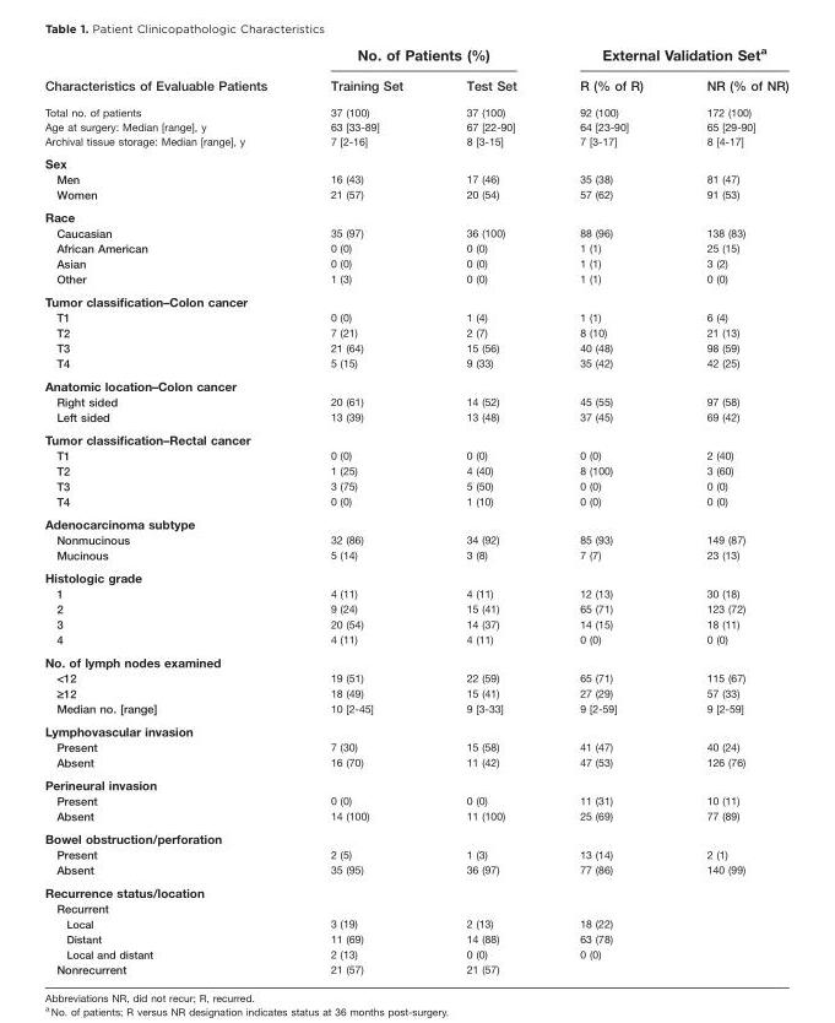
<table><thead><tr><td rowspan="2">Characteristics of Evaluable Patients</td><td colspan="2">No. of Patients (%)</td><td colspan="2">External Validation Set<sup>a</sup></td></tr><tr><td>Training Set</td><td>Test Set</td><td>R (% of R)</td><td>NR (% of NR)</td></tr></thead><tbody><tr><td>Total no. of patients</td><td>37 (100)</td><td>37 (100)</td><td>92 (100)</td><td>172 (100)</td></tr><tr><td>Age at surgery: Median [range], y</td><td>63 [33-89]</td><td>67 [22-90]</td><td>64 [23-90]</td><td>65 [29-90]</td></tr><tr><td>Archival tissue storage: Median [range], y</td><td>7 [2-16]</td><td>8 [3-15]</td><td>7 [3-17]</td><td>8 [4-17]</td></tr><tr><td colspan="5">Sex</td></tr><tr><td>Men</td><td>16 (43)</td><td>17 (46)</td><td>35 (38)</td><td>81 (47)</td></tr><tr><td>Women</td><td>21 (57)</td><td>20 (54)</td><td>57 (62)</td><td>91 (53)</td></tr><tr><td colspan="5">Race</td></tr><tr><td>Caucasian</td><td>35 (97)</td><td>36 (100)</td><td>88 (96)</td><td>138 (83)</td></tr><tr><td>African American</td><td>0 (0)</td><td>0 (0)</td><td>1 (1)</td><td>25 (15)</td></tr><tr><td>Asian</td><td>0 (0)</td><td>0 (0)</td><td>1 (1)</td><td>3 (2)</td></tr><tr><td>Other</td><td>1 (3)</td><td>0 (0)</td><td>1 (1)</td><td>0 (0)</td></tr><tr><td colspan="5">Tumor classification–Colon cancer</td></tr><tr><td>T1</td><td>0 (0)</td><td>1 (4)</td><td>1 (1)</td><td>6 (4)</td></tr><tr><td>T2</td><td>7 (21)</td><td>2 (7)</td><td>8 (10)</td><td>21 (13)</td></tr><tr><td>T3</td><td>21 (64)</td><td>15 (56)</td><td>40 (48)</td><td>98 (59)</td></tr><tr><td>T4</td><td>5 (15)</td><td>9 (33)</td><td>35 (42)</td><td>42 (25)</td></tr><tr><td colspan="5">Anatomic location–Colon cancer</td></tr><tr><td>Right sided</td><td>20 (61)</td><td>14 (52)</td><td>45 (55)</td><td>97 (58)</td></tr><tr><td>Left sided</td><td>13 (39)</td><td>13 (48)</td><td>37 (45)</td><td>69 (42)</td></tr><tr><td colspan="5">Tumor classification–Rectal cancer</td></tr><tr><td>T1</td><td>0 (0)</td><td>0 (0)</td><td>0 (0)</td><td>2 (40)</td></tr><tr><td>T2</td><td>1 (25)</td><td>4 (40)</td><td>8 (100)</td><td>3 (60)</td></tr><tr><td>T3</td><td>3 (75)</td><td>5 (50)</td><td>0 (0)</td><td>0 (0)</td></tr><tr><td>T4</td><td>0 (0)</td><td>1 (10)</td><td>0 (0)</td><td>0 (0)</td></tr><tr><td colspan="5">Adenocarcinoma subtype</td></tr><tr><td>Nonmucinous</td><td>32 (86)</td><td>34 (92)</td><td>85 (93)</td><td>149 (87)</td></tr><tr><td>Mucinous</td><td>5 (14)</td><td>3 (8)</td><td>7 (7)</td><td>23 (13)</td></tr><tr><td colspan="5">Histologic grade</td></tr><tr><td>1</td><td>4 (11)</td><td>4 (11)</td><td>12 (13)</td><td>30 (18)</td></tr><tr><td>2</td><td>9 (24)</td><td>15 (41)</td><td>65 (71)</td><td>123 (72)</td></tr><tr><td>3</td><td>20 (54)</td><td>14 (37)</td><td>14 (15)</td><td>18 (11)</td></tr><tr><td>4</td><td>4 (11)</td><td>4 (11)</td><td>0 (0)</td><td>0 (0)</td></tr><tr><td colspan="5">No. of lymph nodes examined</td></tr><tr><td>&lt;12</td><td>19 (51)</td><td>22 (59)</td><td>65 (71)</td><td>115 (67)</td></tr><tr><td>‡12</td><td>18 (49)</td><td>15 (41)</td><td>27 (29)</td><td>57 (33)</td></tr><tr><td>Median no. [range]</td><td>10 [2-45]</td><td>9 [3-33]</td><td>9 [2-59]</td><td>9 [2-59]</td></tr><tr><td colspan="5">Lymphovascular invasion</td></tr><tr><td>Present</td><td>7 (30)</td><td>15 (58)</td><td>41 (47)</td><td>40 (24)</td></tr><tr><td>Absent</td><td>16 (70)</td><td>11 (42)</td><td>47 (53)</td><td>126 (76)</td></tr><tr><td colspan="5">Perineural invasion</td></tr><tr><td>Present</td><td>0 (0)</td><td>0 (0)</td><td>11 (31)</td><td>10 (11)</td></tr><tr><td>Absent</td><td>14 (100)</td><td>11 (100)</td><td>25 (69)</td><td>77 (89)</td></tr><tr><td colspan="5">Bowel obstruction/perforation</td></tr><tr><td>Present</td><td>2 (5)</td><td>1 (3)</td><td>13 (14)</td><td>2 (1)</td></tr><tr><td>Absent</td><td>35 (95)</td><td>36 (97)</td><td>77 (86)</td><td>140 (99)</td></tr><tr><td colspan="5">Recurrence status/location</td></tr><tr><td colspan="5">Recurrent</td></tr><tr><td>Local</td><td>3 (19)</td><td>2 (13)</td><td>18 (22)</td><td></td></tr><tr><td>Distant</td><td>11 (69)</td><td>14 (88)</td><td>63 (78)</td><td></td></tr><tr><td>Local and distant</td><td>2 (13)</td><td>0 (0)</td><td>0 (0)</td><td></td></tr><tr><td>Nonrecurrent</td><td>21 (57)</td><td>21 (57)</td><td></td><td></td></tr></tbody></table>